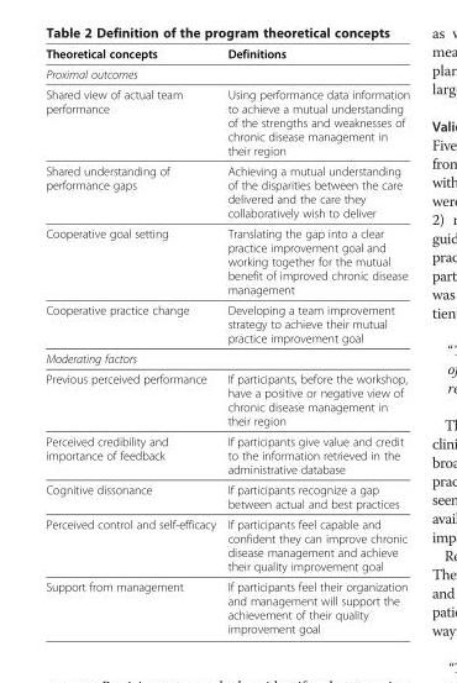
<table><thead><tr><td>Theoretical concepts</td><td>Definitions</td></tr></thead><tbody><tr><td colspan="2">Proximal outcomes</td></tr><tr><td>Shared view of actual team performance</td><td>Using performance data information to achieve a mutual understanding of the strengths and weaknesses of chronic disease management in their region</td></tr><tr><td>Shared understanding of performance gaps</td><td>Achieving a mutual understanding of the disparities between the care delivered and the care they collaboratively wish to deliver</td></tr><tr><td>Cooperative goal setting</td><td>Translating the gap into a clear practice improvement goal and working together for the mutual benefit of improved chronic disease management</td></tr><tr><td>Cooperative practice change</td><td>Developing a team improvement strategy to achieve their mutual practice improvement goal</td></tr><tr><td colspan="2">Moderating factors</td></tr><tr><td>Previous perceived performance</td><td>If participants, before the workshop, have a positive or negative view of chronic disease management in their region</td></tr><tr><td>Perceived credibility and importance of feedback</td><td>If participants give value and credit to the information retrieved in the administrative database</td></tr><tr><td>Cognitive dissonance</td><td>If participants recognize a gap between actual and best practices</td></tr><tr><td>Perceived control and self-efficacy</td><td>If participants feel capable and confident they can improve chronic disease management and achieve their quality improvement goal</td></tr><tr><td>Support from management</td><td>If participants feel their organization and management will support the achievement of their quality improvement goal</td></tr></tbody></table>